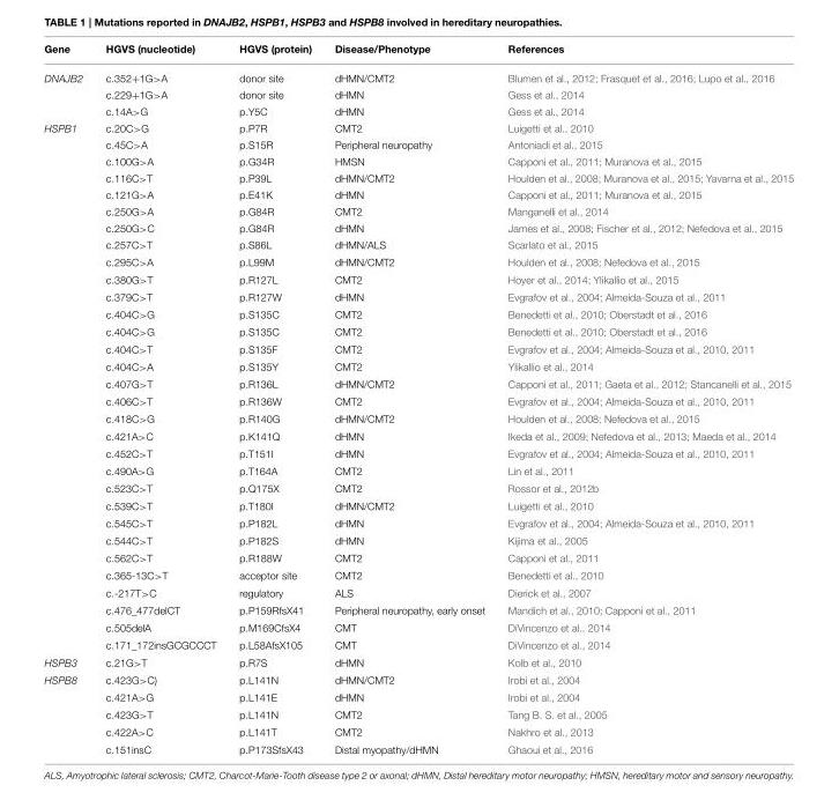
<table><thead><tr><td>Gene</td><td>HGVS (nucleotide)</td><td>HGVS (protein)</td><td>Disease/Phenotype</td><td>References</td></tr></thead><tbody><tr><td rowspan="3">DNAJB2</td><td>c.352+1G&gt;A</td><td>donor site</td><td>dHMN/CMT2</td><td>Blumen et al., 2012; Frasquet et al., 2016; Lupo et al., 2016</td></tr><tr><td>c.229+1G&gt;A</td><td>donor site</td><td>dHMN</td><td>Gess et al., 2014</td></tr><tr><td>c.14A&gt;G</td><td>p.Y5C</td><td>dHMN</td><td>Gess et al., 2014</td></tr><tr><td rowspan="31">HSPB1</td><td>c.20C&gt;G</td><td>p.P7R</td><td>CMT2</td><td>Luigetti et al., 2010</td></tr><tr><td>c.45C&gt;A</td><td>p.S15R</td><td>Peripheral neuropathy</td><td>Antoniadi et al., 2015</td></tr><tr><td>c.100G&gt;A</td><td>p.G34R</td><td>HMSN</td><td>Capponi et al., 2011; Muranova et al., 2015</td></tr><tr><td>c.116C&gt;T</td><td>p.P39L</td><td>dHMN/CMT2</td><td>Houlden et al., 2008; Muranova et al., 2015; Yavarna et al., 2015</td></tr><tr><td>c.121G&gt;A</td><td>p.E41K</td><td>dHMN</td><td>Capponi et al., 2011; Muranova et al., 2015</td></tr><tr><td>c.250G&gt;A</td><td>p.G84R</td><td>CMT2</td><td>Manganelli et al., 2014</td></tr><tr><td>c.250G&gt;C</td><td>p.G84R</td><td>dHMN</td><td>James et al., 2008; Fischer et al., 2012; Nefedova et al., 2015</td></tr><tr><td>c.257C&gt;T</td><td>p.S86L</td><td>dHMN/ALS</td><td>Scarlato et al., 2015</td></tr><tr><td>c.295C&gt;A</td><td>p.L99M</td><td>dHMN/CMT2</td><td>Houlden et al., 2008; Nefedova et al., 2015</td></tr><tr><td>c.380G&gt;T</td><td>p.R127L</td><td>CMT2</td><td>Hoyer et al., 2014; Ylikallio et al., 2015</td></tr><tr><td>c.379C&gt;T</td><td>p.R127W</td><td>dHMN</td><td>Evgrafov et al., 2004; Almeida-Souza et al., 2011</td></tr><tr><td>c.404C&gt;G</td><td>p.S135C</td><td>CMT2</td><td>Benedetti et al., 2010; Oberstadt et al., 2016</td></tr><tr><td>c.404C&gt;G</td><td>p.S135C</td><td>CMT2</td><td>Benedetti et al., 2010; Oberstadt et al., 2016</td></tr><tr><td>c.404C&gt;T</td><td>p.S135F</td><td>CMT2</td><td>Evgrafov et al., 2004; Almeida-Souza et al., 2010, 2011</td></tr><tr><td>c.404C&gt;A</td><td>p.S135Y</td><td>CMT2</td><td>Ylikallio et al., 2014</td></tr><tr><td>c.407G&gt;T</td><td>p.R136L</td><td>dHMN/CMT2</td><td>Capponi et al., 2011; Gaeta et al., 2012; Stancanelli et al., 2015</td></tr><tr><td>c.406C&gt;T</td><td>p.R136W</td><td>CMT2</td><td>Evgrafov et al., 2004; Almeida-Souza et al., 2010, 2011</td></tr><tr><td>c.418C&gt;G</td><td>p.R140G</td><td>dHMN/CMT2</td><td>Houlden et al., 2008; Nefedova et al., 2015</td></tr><tr><td>c.421A&gt;C</td><td>p.K141Q</td><td>dHMN</td><td>Ikeda et al., 2009; Nefedova et al., 2013; Maeda et al., 2014</td></tr><tr><td>c.452C&gt;T</td><td>p.T151I</td><td>dHMN</td><td>Evgrafov et al., 2004; Almeida-Souza et al., 2010, 2011</td></tr><tr><td>c.490A&gt;G</td><td>p.T164A</td><td>CMT2</td><td>Lin et al., 2011</td></tr><tr><td>c.523C&gt;T</td><td>p.Q175X</td><td>CMT2</td><td>Rossor et al., 2012b</td></tr><tr><td>c.539C&gt;T</td><td>p.T180I</td><td>dHMN/CMT2</td><td>Luigetti et al., 2010</td></tr><tr><td>c.545C&gt;T</td><td>p.P182L</td><td>dHMN</td><td>Evgrafov et al., 2004; Almeida-Souza et al., 2010, 2011</td></tr><tr><td>c.544C&gt;T</td><td>p.P182S</td><td>dHMN</td><td>Kijima et al., 2005</td></tr><tr><td>c.562C&gt;T</td><td>p.R188W</td><td>CMT2</td><td>Capponi et al., 2011</td></tr><tr><td>c.365-13C&gt;T</td><td>acceptor site</td><td>CMT2</td><td>Benedetti et al., 2010</td></tr><tr><td>c.-217T&gt;C</td><td>regulatory</td><td>ALS</td><td>Dierick et al., 2007</td></tr><tr><td>c.476_477delCT</td><td>p.P159RfsX41</td><td>Peripheral neuropathy, early onset</td><td>Mandich et al., 2010; Capponi et al., 2011</td></tr><tr><td>c.505delA</td><td>p.M169CfsX4</td><td>CMT</td><td>DiVincenzo et al., 2014</td></tr><tr><td>c.171_172insGCGCCCT</td><td>p.L58AfsX105</td><td>CMT</td><td>DiVincenzo et al., 2014</td></tr><tr><td>HSPB3</td><td>c.21G&gt;T</td><td>p.R7S</td><td>dHMN</td><td>Kolb et al., 2010</td></tr><tr><td rowspan="5">HSPB8</td><td>c.423G&gt;C)</td><td>p.L141N</td><td>dHMN/CMT2</td><td>Irobi et al., 2004</td></tr><tr><td>c.421A&gt;G</td><td>p.L141E</td><td>dHMN</td><td>Irobi et al., 2004</td></tr><tr><td>c.423G&gt;T</td><td>p.L141N</td><td>CMT2</td><td>Tang B. S. et al., 2005</td></tr><tr><td>c.422A&gt;C</td><td>p.L141T</td><td>CMT2</td><td>Nakhro et al., 2013</td></tr><tr><td>c.151insC</td><td>p.P173SfsX43</td><td>Distal myopathy/dHMN</td><td>Ghaoui et al., 2016</td></tr></tbody></table>